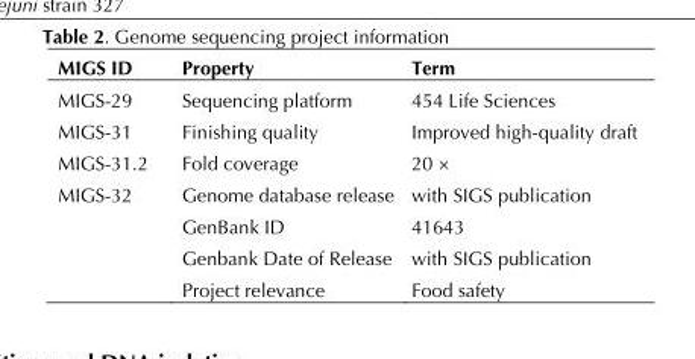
<table><thead><tr><td>MIGS ID</td><td>Property</td><td>Term</td></tr></thead><tbody><tr><td>MIGS-29</td><td>Sequencing platform</td><td>454 Life Sciences</td></tr><tr><td>MIGS-31</td><td>Finishing quality</td><td>Improved high-quality draft</td></tr><tr><td>MIGS-31.2</td><td>Fold coverage</td><td>20 ×</td></tr><tr><td rowspan="4">MIGS-32</td><td>Genome database release</td><td>with SIGS publication</td></tr><tr><td>GenBank ID</td><td>41643</td></tr><tr><td>Genbank Date of Release</td><td>with SIGS publication</td></tr><tr><td>Project relevance</td><td>Food safety</td></tr></tbody></table>